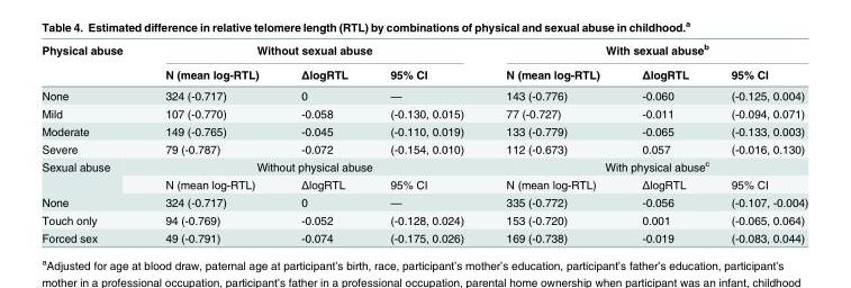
<table><thead><tr><td rowspan="2">Physical abuse</td><td colspan="3">Without sexual abuse</td><td colspan="3">With sexual abuse<sup>b</sup></td></tr><tr><td>N (mean log-RTL)</td><td>ΔlogRTL</td><td>95% CI</td><td>N (mean log-RTL)</td><td>ΔlogRTL</td><td>95% CI</td></tr></thead><tbody><tr><td>None</td><td>324 (-0.717)</td><td>0</td><td>—</td><td>143 (-0.776)</td><td>-0.060</td><td>(-0.125, 0.004)</td></tr><tr><td>Mild</td><td>107 (-0.770)</td><td>-0.058</td><td>(-0.130, 0.015)</td><td>77 (-0.727)</td><td>-0.011</td><td>(-0.094, 0.071)</td></tr><tr><td>Moderate</td><td>149 (-0.765)</td><td>-0.045</td><td>(-0.110, 0.019)</td><td>133 (-0.779)</td><td>-0.065</td><td>(-0.133, 0.003)</td></tr><tr><td>Severe</td><td>79 (-0.787)</td><td>-0.072</td><td>(-0.154, 0.010)</td><td>112 (-0.673)</td><td>0.057</td><td>(-0.016, 0.130)</td></tr><tr><td rowspan="2">Sexual abuse</td><td colspan="3">Without physical abuse</td><td colspan="3">With physical abuse<sup>c</sup></td></tr><tr><td>N (mean log-RTL)</td><td>ΔlogRTL</td><td>95% CI</td><td>N (mean log-RTL)</td><td>ΔlogRTL</td><td>95% CI</td></tr><tr><td>None</td><td>324 (-0.717)</td><td>0</td><td>—</td><td>335 (-0.772)</td><td>-0.056</td><td>(-0.107, -0.004)</td></tr><tr><td>Touch only</td><td>94 (-0.769)</td><td>-0.052</td><td>(-0.128, 0.024)</td><td>153 (-0.720)</td><td>0.001</td><td>(-0.065, 0.064)</td></tr><tr><td>Forced sex</td><td>49 (-0.791)</td><td>-0.074</td><td>(-0.175, 0.026)</td><td>169 (-0.738)</td><td>-0.019</td><td>(-0.083, 0.044)</td></tr></tbody></table>